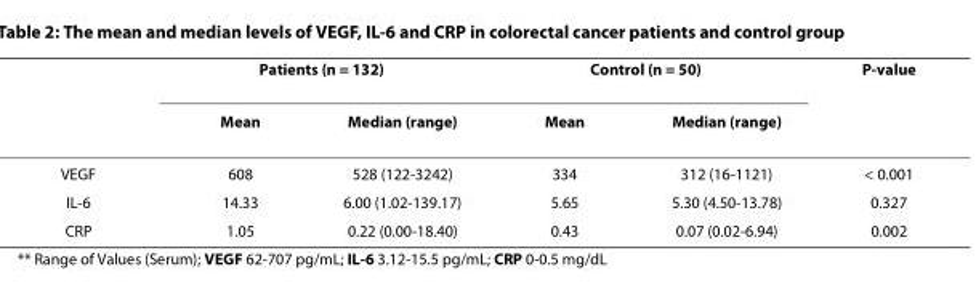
<table><thead><tr><td rowspan="2"></td><td colspan="2">Patients (n = 132)</td><td colspan="2">Control (n = 50)</td><td rowspan="2">P-value</td></tr><tr><td>Mean</td><td>Median (range)</td><td>Mean</td><td>Median (range)</td></tr></thead><tbody><tr><td>VEGF</td><td>608</td><td>528 (122-3242)</td><td>334</td><td>312 (16-1121)</td><td>&lt; 0.001</td></tr><tr><td>IL-6</td><td>14.33</td><td>6.00 (1.02-139.17)</td><td>5.65</td><td>5.30 (4.50-13.78)</td><td>0.327</td></tr><tr><td>CRP</td><td>1.05</td><td>0.22 (0.00-18.40)</td><td>0.43</td><td>0.07 (0.02-6.94)</td><td>0.002</td></tr></tbody></table>